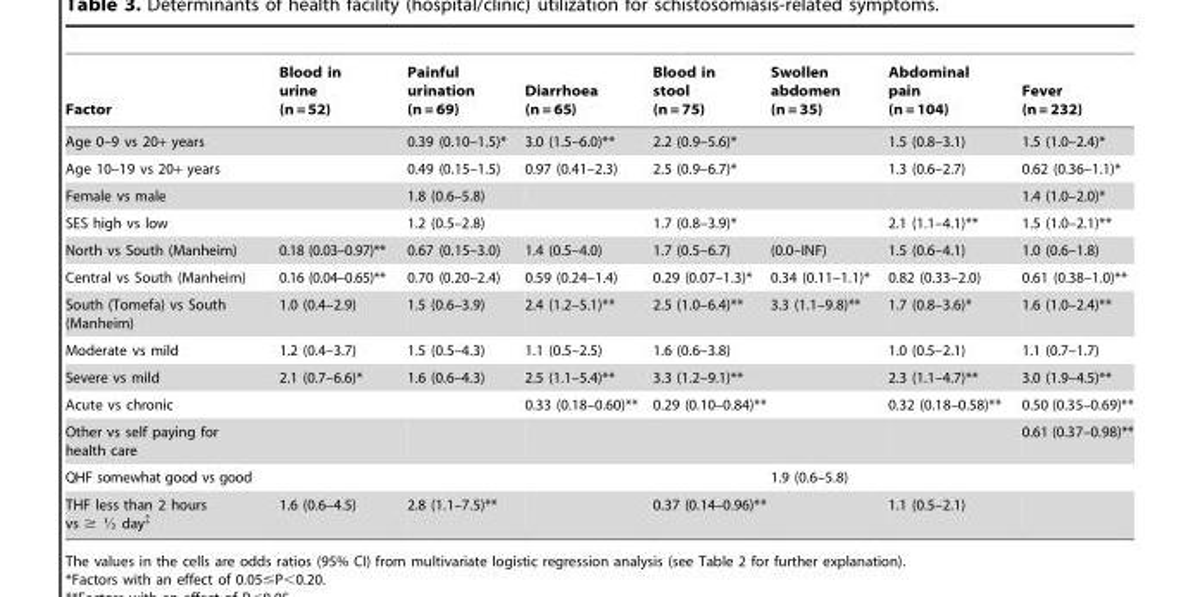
<table><thead><tr><td>Factor</td><td>Blood in urine (n = 52)</td><td>Painful urination (n = 69)</td><td>Diarrhoea (n = 65)</td><td>Blood in stool (n = 75)</td><td>Swollen abdomen (n = 35)</td><td>Abdominal pain (n = 104)</td><td>Fever (n = 232)</td></tr></thead><tbody><tr><td>Age 0–9 vs 20+ years</td><td></td><td>0.39 (0.10–1.5)*</td><td>3.0 (1.5–6.0)**</td><td>2.2 (0.9–5.6)*</td><td></td><td>1.5 (0.8–3.1)</td><td>1.5 (1.0–2.4)*</td></tr><tr><td>Age 10–19 vs 20+ years</td><td></td><td>0.49 (0.15–1.5)</td><td>0.97 (0.41–2.3)</td><td>2.5 (0.9–6.7)*</td><td></td><td>1.3 (0.6–2.7)</td><td>0.62 (0.36–1.1)*</td></tr><tr><td>Female vs male</td><td></td><td>1.8 (0.6–5.8)</td><td></td><td></td><td></td><td></td><td>1.4 (1.0–2.0)*</td></tr><tr><td>SES high vs low</td><td></td><td>1.2 (0.5–2.8)</td><td></td><td>1.7 (0.8–3.9)*</td><td></td><td>2.1 (1.1–4.1)**</td><td>1.5 (1.0–2.1)**</td></tr><tr><td>North vs South (Manheim)</td><td>0.18 (0.03–0.97)**</td><td>0.67 (0.15–3.0)</td><td>1.4 (0.5–4.0)</td><td>1.7 (0.5–6.7)</td><td>(0.0–INF)</td><td>1.5 (0.6–4.1)</td><td>1.0 (0.6–1.8)</td></tr><tr><td>Central vs South (Manheim)</td><td>0.16 (0.04–0.65)**</td><td>0.70 (0.20–2.4)</td><td>0.59 (0.24–1.4)</td><td>0.29 (0.07–1.3)*</td><td>0.34 (0.11–1.1)*</td><td>0.82 (0.33–2.0)</td><td>0.61 (0.38–1.0)**</td></tr><tr><td>South (Tomefa) vs South (Manheim)</td><td>1.0 (0.4–2.9)</td><td>1.5 (0.6–3.9)</td><td>2.4 (1.2–5.1)**</td><td>2.5 (1.0–6.4)**</td><td>3.3 (1.1–9.8)**</td><td>1.7 (0.8–3.6)*</td><td>1.6 (1.0–2.4)**</td></tr><tr><td>Moderate vs mild</td><td>1.2 (0.4–3.7)</td><td>1.5 (0.5–4.3)</td><td>1.1 (0.5–2.5)</td><td>1.6 (0.6–3.8)</td><td></td><td>1.0 (0.5–2.1)</td><td>1.1 (0.7–1.7)</td></tr><tr><td>Severe vs mild</td><td>2.1 (0.7–6.6)*</td><td>1.6 (0.6–4.3)</td><td>2.5 (1.1–5.4)**</td><td>3.3 (1.2–9.1)**</td><td></td><td>2.3 (1.1–4.7)**</td><td>3.0 (1.9–4.5)**</td></tr><tr><td>Acute vs chronic</td><td></td><td></td><td>0.33 (0.18–0.60)**</td><td>0.29 (0.10–0.84)**</td><td></td><td>0.32 (0.18–0.58)**</td><td>0.50 (0.35–0.69)**</td></tr><tr><td>Other vs self paying for health care</td><td></td><td></td><td></td><td></td><td></td><td></td><td>0.61 (0.37–0.98)**</td></tr><tr><td>QHF somewhat good vs good</td><td></td><td></td><td></td><td></td><td>1.9 (0.6–5.8)</td><td></td><td></td></tr><tr><td>THF less than 2 hours vs $ K day{</td><td>1.6 (0.6–4.5)</td><td>2.8 (1.1–7.5)**</td><td></td><td>0.37 (0.14–0.96)**</td><td></td><td>1.1 (0.5–2.1)</td><td></td></tr></tbody></table>